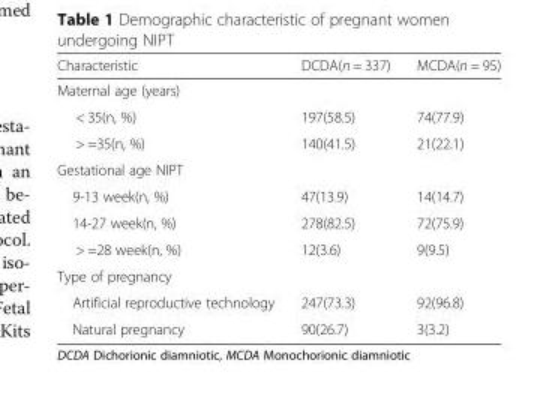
<table><thead><tr><td>Characteristic</td><td>DCDA(n = 337)</td><td>MCDA(n = 95)</td></tr></thead><tbody><tr><td colspan="3">Maternal age (years)</td></tr><tr><td>&lt; 35(n, %)</td><td>197(58.5)</td><td>74(77.9)</td></tr><tr><td>&gt; =35(n, %)</td><td>140(41.5)</td><td>21(22.1)</td></tr><tr><td colspan="3">Gestational age NIPT</td></tr><tr><td>9-13 week(n, %)</td><td>47(13.9)</td><td>14(14.7)</td></tr><tr><td>14-27 week(n, %)</td><td>278(82.5)</td><td>72(75.9)</td></tr><tr><td>&gt; =28 week(n, %)</td><td>12(3.6)</td><td>9(9.5)</td></tr><tr><td colspan="3">Type of pregnancy</td></tr><tr><td>Artificial reproductive technology</td><td>247(73.3)</td><td>92(96.8)</td></tr><tr><td>Natural pregnancy</td><td>90(26.7)</td><td>3(3.2)</td></tr></tbody></table>